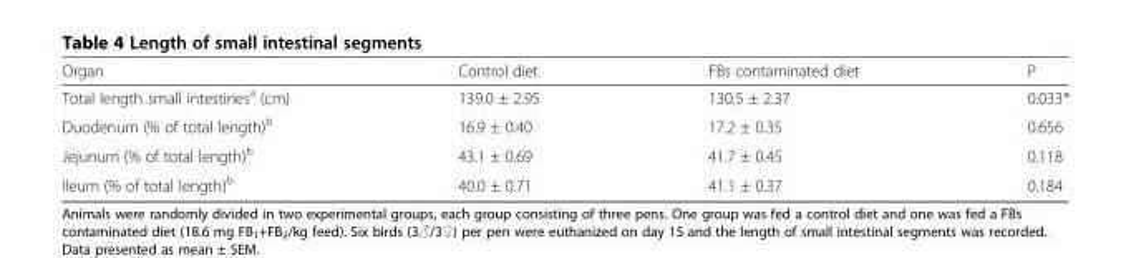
<table><thead><tr><td>Organ</td><td>Control diet</td><td>FBs contaminated diet</td><td>P</td></tr></thead><tbody><tr><td>Total length small intestines<sup>a</sup> (cm)</td><td>139.0 ± 2.95</td><td>130.5 ± 2.37</td><td>0.033*</td></tr><tr><td>Duodenum (% of total length)<sup>b</sup></td><td>16.9 ± 0.40</td><td>17.2 ± 0.35</td><td>0.656</td></tr><tr><td>Jejunum (% of total length)<sup>b</sup></td><td>43.1 ± 0.69</td><td>41.7 ± 0.45</td><td>0.118</td></tr><tr><td>Ileum (% of total length)<sup>b</sup></td><td>40.0 ± 0.71</td><td>41.1 ± 0.37</td><td>0.184</td></tr></tbody></table>